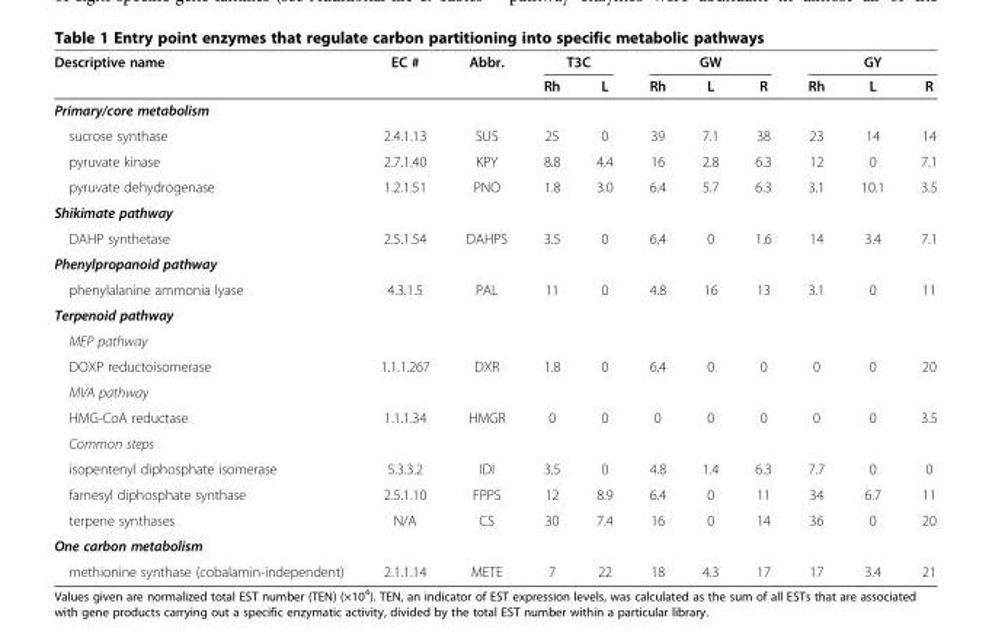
<table><thead><tr><td rowspan="2">Descriptive name</td><td rowspan="2">EC #</td><td rowspan="2">Abbr.</td><td colspan="2">T3C</td><td colspan="3">GW</td><td colspan="3">GY</td></tr><tr><td>Rh</td><td>L</td><td>Rh</td><td>L</td><td>R</td><td>Rh</td><td>L</td><td>R</td></tr></thead><tbody><tr><td colspan="11">Primary/core metabolism</td></tr><tr><td>sucrose synthase</td><td>2.4.1.13</td><td>SUS</td><td>25</td><td>0</td><td>39</td><td>7.1</td><td>38</td><td>23</td><td>14</td><td>14</td></tr><tr><td>pyruvate kinase</td><td>2.7.1.40</td><td>KPY</td><td>8.8</td><td>4.4</td><td>16</td><td>2.8</td><td>6.3</td><td>12</td><td>0</td><td>7.1</td></tr><tr><td>pyruvate dehydrogenase</td><td>1.2.1.51</td><td>PNO</td><td>1.8</td><td>3.0</td><td>6.4</td><td>5.7</td><td>6.3</td><td>3.1</td><td>10.1</td><td>3.5</td></tr><tr><td colspan="11">Shikimate pathway</td></tr><tr><td>DAHP synthetase</td><td>2.5.1.54</td><td>DAHPS</td><td>3.5</td><td>0</td><td>6.4</td><td>0</td><td>1.6</td><td>14</td><td>3.4</td><td>7.1</td></tr><tr><td colspan="11">Phenylpropanoid pathway</td></tr><tr><td>phenylalanine ammonia lyase</td><td>4.3.1.5</td><td>PAL</td><td>11</td><td>0</td><td>4.8</td><td>16</td><td>13</td><td>3.1</td><td>0</td><td>11</td></tr><tr><td colspan="11">Terpenoid pathway</td></tr><tr><td colspan="11">MEP pathway</td></tr><tr><td>DOXP reductoisomerase</td><td>1.1.1.267</td><td>DXR</td><td>1.8</td><td>0</td><td>6.4</td><td>0</td><td>0</td><td>0</td><td>0</td><td>20</td></tr><tr><td colspan="11">MVA pathway</td></tr><tr><td>HMG-CoA reductase</td><td>1.1.1.34</td><td>HMGR</td><td>0</td><td>0</td><td>0</td><td>0</td><td>0</td><td>0</td><td>0</td><td>3.5</td></tr><tr><td colspan="11">Common steps</td></tr><tr><td>isopentenyl diphosphate isomerase</td><td>5.3.3.2</td><td>IDI</td><td>3.5</td><td>0</td><td>4.8</td><td>1.4</td><td>6.3</td><td>7.7</td><td>0</td><td>0</td></tr><tr><td>farnesyl diphosphate synthase</td><td>2.5.1.10</td><td>FPPS</td><td>12</td><td>8.9</td><td>6.4</td><td>0</td><td>11</td><td>34</td><td>6.7</td><td>11</td></tr><tr><td>terpene synthases</td><td>N/A</td><td>CS</td><td>30</td><td>7.4</td><td>16</td><td>0</td><td>14</td><td>36</td><td>0</td><td>20</td></tr><tr><td colspan="11">One carbon metabolism</td></tr><tr><td>methionine synthase (cobalamin-independent)</td><td>2.1.1.14</td><td>METE</td><td>7</td><td>22</td><td>18</td><td>4.3</td><td>17</td><td>17</td><td>3.4</td><td>21</td></tr></tbody></table>